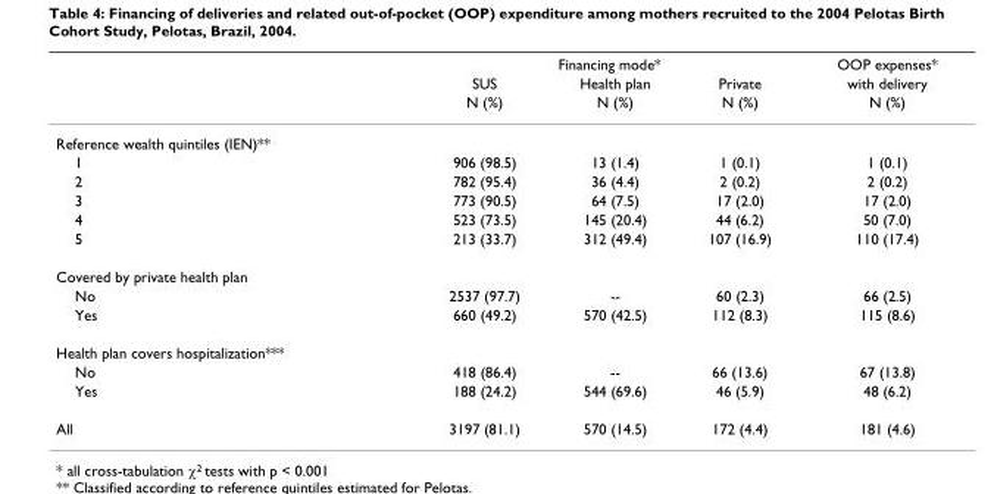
<table><thead><tr><td rowspan="3"></td><td colspan="3">Financing mode*</td><td rowspan="3">OOP expenses* with delivery N (%)</td></tr><tr><td rowspan="2">SUS N (%)</td><td rowspan="2">Health plan N (%)</td><td rowspan="2">Private N (%)</td></tr><tr></tr></thead><tbody><tr><td colspan="5">Reference wealth quintiles (IEN)**</td></tr><tr><td>1</td><td>906 (98.5)</td><td>13 (1.4)</td><td>1 (0.1)</td><td>1 (0.1)</td></tr><tr><td>2</td><td>782 (95.4)</td><td>36 (4.4)</td><td>2 (0.2)</td><td>2 (0.2)</td></tr><tr><td>3</td><td>773 (90.5)</td><td>64 (7.5)</td><td>17 (2.0)</td><td>17 (2.0)</td></tr><tr><td>4</td><td>523 (73.5)</td><td>145 (20.4)</td><td>44 (6.2)</td><td>50 (7.0)</td></tr><tr><td>5</td><td>213 (33.7)</td><td>312 (49.4)</td><td>107 (16.9)</td><td>110 (17.4)</td></tr><tr><td colspan="5">Covered by private health plan</td></tr><tr><td>No</td><td>2537 (97.7)</td><td>--</td><td>60 (2.3)</td><td>66 (2.5)</td></tr><tr><td>Yes</td><td>660 (49.2)</td><td>570 (42.5)</td><td>112 (8.3)</td><td>115 (8.6)</td></tr><tr><td colspan="5">Health plan covers hospitalization***</td></tr><tr><td>No</td><td>418 (86.4)</td><td>--</td><td>66 (13.6)</td><td>67 (13.8)</td></tr><tr><td>Yes</td><td>188 (24.2)</td><td>544 (69.6)</td><td>46 (5.9)</td><td>48 (6.2)</td></tr><tr><td>All</td><td>3197 (81.1)</td><td>570 (14.5)</td><td>172 (4.4)</td><td>181 (4.6)</td></tr></tbody></table>